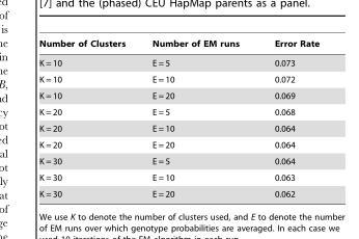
<table><thead><tr><td>Number of Clusters</td><td>Number of EM runs</td><td>Error Rate</td></tr></thead><tbody><tr><td>K = 10</td><td>E = 5</td><td>0.073</td></tr><tr><td>K = 10</td><td>E = 10</td><td>0.072</td></tr><tr><td>K = 10</td><td>E = 20</td><td>0.069</td></tr><tr><td>K = 20</td><td>E = 5</td><td>0.068</td></tr><tr><td>K = 20</td><td>E = 10</td><td>0.064</td></tr><tr><td>K = 20</td><td>E = 20</td><td>0.064</td></tr><tr><td>K = 30</td><td>E = 5</td><td>0.064</td></tr><tr><td>K = 30</td><td>E = 10</td><td>0.063</td></tr><tr><td>K = 30</td><td>E = 20</td><td>0.062</td></tr></tbody></table>